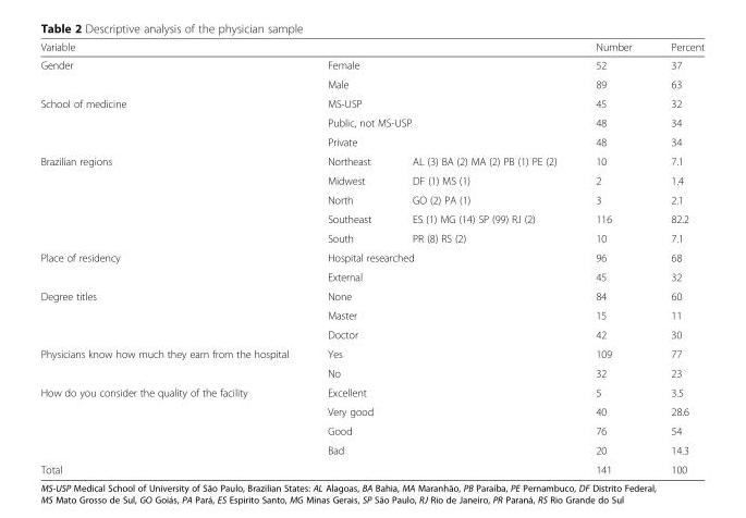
<table><thead><tr><td>Variable</td><td></td><td></td><td>Number</td><td>Percent</td></tr></thead><tbody><tr><td rowspan="2">Gender</td><td colspan="2">Female</td><td>52</td><td>37</td></tr><tr><td colspan="2">Male</td><td>89</td><td>63</td></tr><tr><td rowspan="3">School of medicine</td><td colspan="2">MS-USP</td><td>45</td><td>32</td></tr><tr><td colspan="2">Public, not MS-USP</td><td>48</td><td>34</td></tr><tr><td colspan="2">Private</td><td>48</td><td>34</td></tr><tr><td rowspan="5">Brazilian regions</td><td>Northeast</td><td>AL (3) BA (2) MA (2) PB (1) PE (2)</td><td>10</td><td>7.1</td></tr><tr><td>Midwest</td><td>DF (1) MS (1)</td><td>2</td><td>1.4</td></tr><tr><td>North</td><td>GO (2) PA (1)</td><td>3</td><td>2.1</td></tr><tr><td>Southeast</td><td>ES (1) MG (14) SP (99) RJ (2)</td><td>116</td><td>82.2</td></tr><tr><td>South</td><td>PR (8) RS (2)</td><td>10</td><td>7.1</td></tr><tr><td rowspan="2">Place of residency</td><td colspan="2">Hospital researched</td><td>96</td><td>68</td></tr><tr><td colspan="2">External</td><td>45</td><td>32</td></tr><tr><td rowspan="3">Degree titles</td><td>None</td><td></td><td>84</td><td>60</td></tr><tr><td>Master</td><td></td><td>15</td><td>11</td></tr><tr><td>Doctor</td><td></td><td>42</td><td>30</td></tr><tr><td rowspan="2">Physicians know how much they earn from the hospital</td><td>Yes</td><td></td><td>109</td><td>77</td></tr><tr><td>No</td><td></td><td>32</td><td>23</td></tr><tr><td rowspan="4">How do you consider the quality of the facility</td><td>Excellent</td><td></td><td>5</td><td>3.5</td></tr><tr><td>Very good</td><td></td><td>40</td><td>28.6</td></tr><tr><td>Good</td><td></td><td>76</td><td>54</td></tr><tr><td>Bad</td><td></td><td>20</td><td>14.3</td></tr><tr><td colspan="3">Total</td><td>141</td><td>100</td></tr></tbody></table>